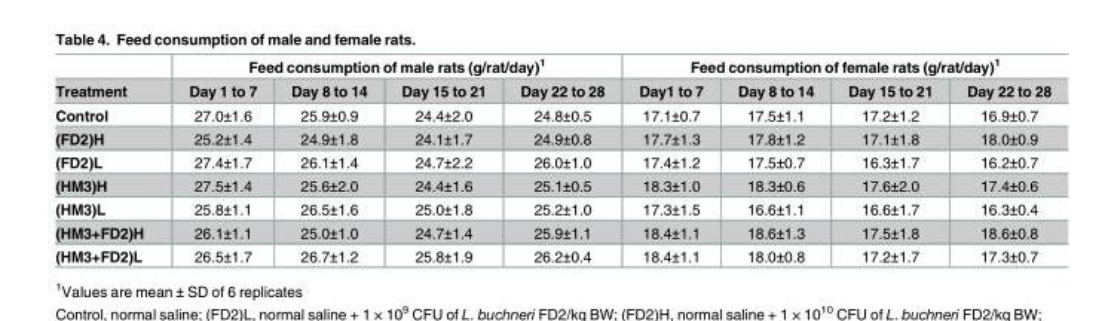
<table><thead><tr><td rowspan="2">Treatment</td><td colspan="4">Feed consumption of male rats (g/rat/day)<sup>1</sup></td><td colspan="4">Feed consumption of female rats (g/rat/day)<sup>1</sup></td></tr><tr><td>Day 1 to 7</td><td>Day 8 to 14</td><td>Day 15 to 21</td><td>Day 22 to 28</td><td>Day1 to 7</td><td>Day 8 to 14</td><td>Day 15 to 21</td><td>Day 22 to 28</td></tr></thead><tbody><tr><td>Control</td><td>27.0±1.6</td><td>25.9±0.9</td><td>24.4±2.0</td><td>24.8±0.5</td><td>17.1±0.7</td><td>17.5±1.1</td><td>17.2±1.2</td><td>16.9±0.7</td></tr><tr><td>(FD2)H</td><td>25.2±1.4</td><td>24.9±1.8</td><td>24.1±1.7</td><td>24.9±0.8</td><td>17.7±1.3</td><td>17.8±1.2</td><td>17.1±1.8</td><td>18.0±0.9</td></tr><tr><td>(FD2)L</td><td>27.4±1.7</td><td>26.1±1.4</td><td>24.7±2.2</td><td>26.0±1.0</td><td>17.4±1.2</td><td>17.5±0.7</td><td>16.3±1.7</td><td>16.2±0.7</td></tr><tr><td>(HM3)H</td><td>27.5±1.4</td><td>25.6±2.0</td><td>24.4±1.6</td><td>25.1±0.5</td><td>18.3±1.0</td><td>18.3±0.6</td><td>17.6±2.0</td><td>17.4±0.6</td></tr><tr><td>(HM3)L</td><td>25.8±1.1</td><td>26.5±1.6</td><td>25.0±1.8</td><td>25.2±1.0</td><td>17.3±1.5</td><td>16.6±1.1</td><td>16.6±1.7</td><td>16.3±0.4</td></tr><tr><td>(HM3+FD2)H</td><td>26.1±1.1</td><td>25.0±1.0</td><td>24.7±1.4</td><td>25.9±1.1</td><td>18.4±1.1</td><td>18.6±1.3</td><td>17.5±1.8</td><td>18.6±0.8</td></tr><tr><td>(HM3+FD2)L</td><td>26.5±1.7</td><td>26.7±1.2</td><td>25.8±1.9</td><td>26.2±0.4</td><td>18.4±1.1</td><td>18.0±0.8</td><td>17.2±1.7</td><td>17.3±0.7</td></tr></tbody></table>